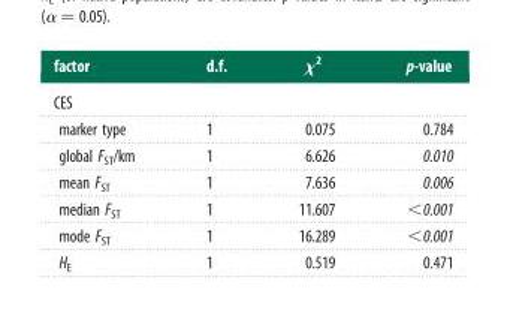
<table><thead><tr><td>factor</td><td>d.f.</td><td>χ<sup>2</sup></td><td>p-value</td></tr></thead><tbody><tr><td colspan="4">CES</td></tr><tr><td>marker type</td><td>1</td><td>0.075</td><td>0.784</td></tr><tr><td>global F<sub>ST</sub>/km</td><td>1</td><td>6.626</td><td>0.010</td></tr><tr><td>mean F<sub>ST</sub></td><td>1</td><td>7.636</td><td>0.006</td></tr><tr><td>median F<sub>ST</sub></td><td>1</td><td>11.607</td><td>&lt;0.001</td></tr><tr><td>mode F<sub>ST</sub></td><td>1</td><td>16.289</td><td>&lt;0.001</td></tr><tr><td>H<sub>E</sub></td><td>1</td><td>0.519</td><td>0.471</td></tr></tbody></table>